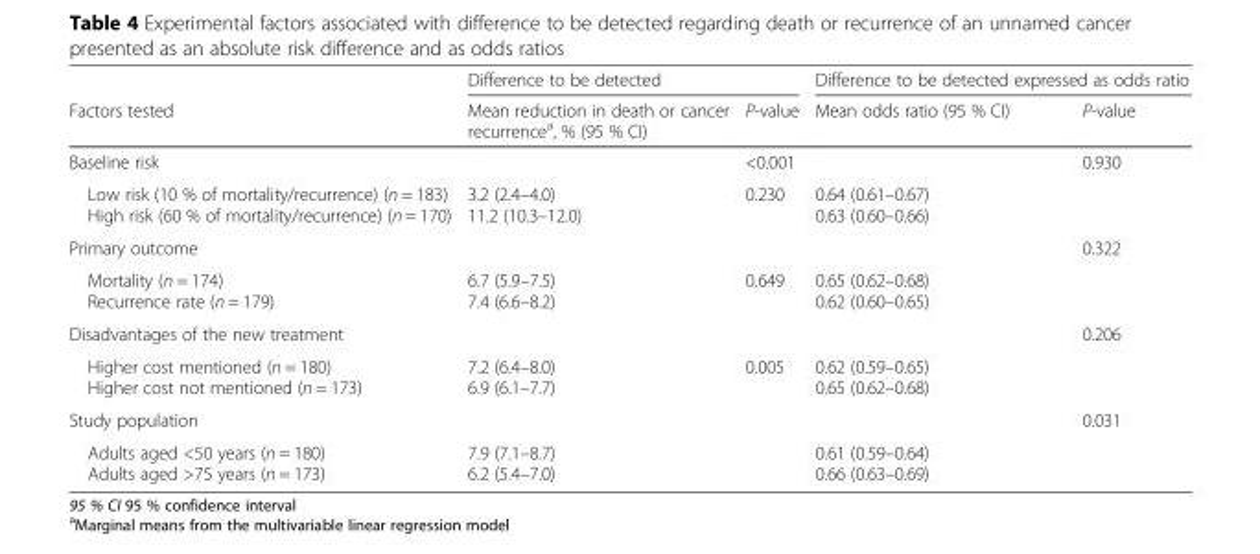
<table><thead><tr><td rowspan="2">Factors tested</td><td colspan="2">Difference to be detected</td><td colspan="2">Difference to be detected expressed as odds ratio</td></tr><tr><td>Mean reduction in death or cancer recurrence<sup>a</sup>, % (95 % CI)</td><td>P-value</td><td>Mean odds ratio (95 % CI)</td><td>P-value</td></tr></thead><tbody><tr><td>Baseline risk</td><td></td><td>&lt;0.001</td><td></td><td rowspan="2">0.930</td></tr><tr><td>Low risk (10 % of mortality/recurrence) (n = 183) High risk (60 % of mortality/recurrence) (n = 170)</td><td>3.2 (2.4–4.0) 11.2 (10.3–12.0)</td><td>0.230</td><td>0.64 (0.61–0.67) 0.63 (0.60–0.66)</td></tr><tr><td colspan="4">Primary outcome</td><td rowspan="2">0.322</td></tr><tr><td>Mortality (n = 174) Recurrence rate (n = 179)</td><td>6.7 (5.9–7.5) 7.4 (6.6–8.2)</td><td>0.649</td><td>0.65 (0.62–0.68) 0.62 (0.60–0.65)</td></tr><tr><td colspan="4">Disadvantages of the new treatment</td><td rowspan="2">0.206</td></tr><tr><td>Higher cost mentioned (n = 180) Higher cost not mentioned (n = 173)</td><td>7.2 (6.4–8.0) 6.9 (6.1–7.7)</td><td>0.005</td><td>0.62 (0.59–0.65) 0.65 (0.62–0.68)</td></tr><tr><td colspan="4">Study population</td><td rowspan="2">0.031</td></tr><tr><td>Adults aged &lt;50 years (n = 180) Adults aged &gt;75 years (n = 173)</td><td>7.9 (7.1–8.7) 6.2 (5.4–7.0)</td><td></td><td>0.61 (0.59–0.64) 0.66 (0.63–0.69)</td></tr></tbody></table>